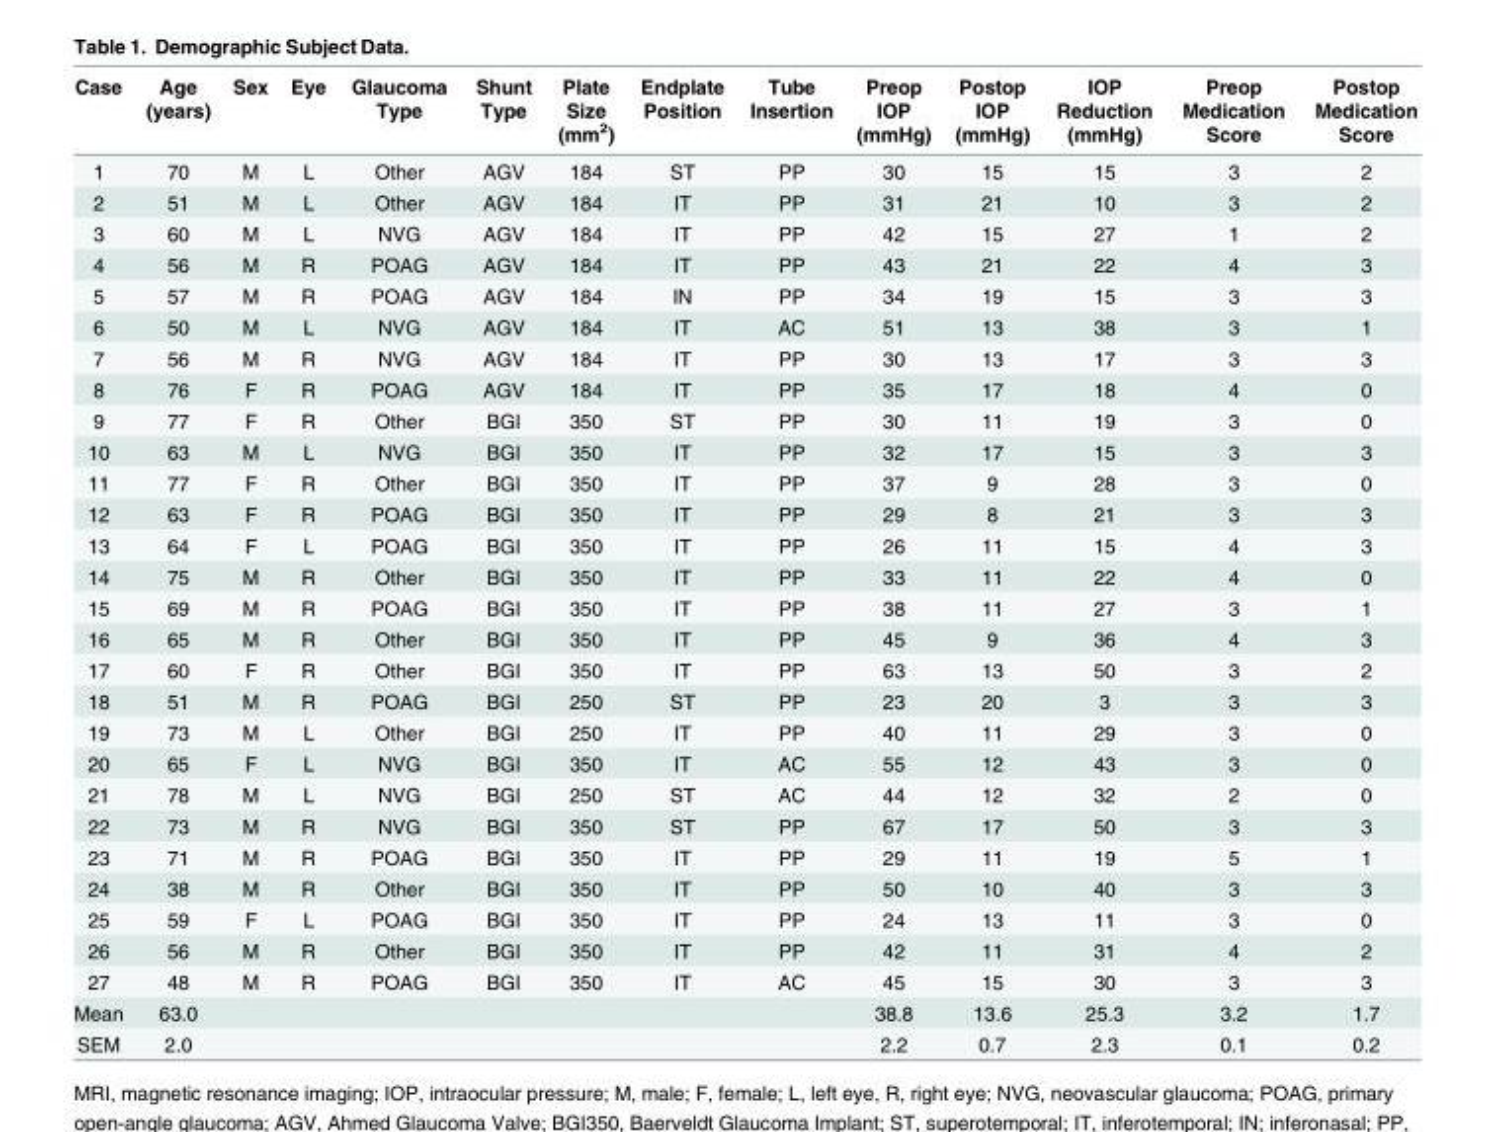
<table><thead><tr><td>Case</td><td>Age (years)</td><td>Sex</td><td>Eye</td><td>Glaucoma Type</td><td>Shunt Type</td><td>Plate Size (mm<sup>2</sup>)</td><td>Endplate Position</td><td>Tube Insertion</td><td>Preop IOP (mmHg)</td><td>Postop IOP (mmHg)</td><td>IOP Reduction (mmHg)</td><td>Preop Medication Score</td><td>Postop Medication Score</td></tr></thead><tbody><tr><td>1</td><td>70</td><td>M</td><td>L</td><td>Other</td><td>AGV</td><td>184</td><td>ST</td><td>PP</td><td>30</td><td>15</td><td>15</td><td>3</td><td>2</td></tr><tr><td>2</td><td>51</td><td>M</td><td>L</td><td>Other</td><td>AGV</td><td>184</td><td>IT</td><td>PP</td><td>31</td><td>21</td><td>10</td><td>3</td><td>2</td></tr><tr><td>3</td><td>60</td><td>M</td><td>L</td><td>NVG</td><td>AGV</td><td>184</td><td>IT</td><td>PP</td><td>42</td><td>15</td><td>27</td><td>1</td><td>2</td></tr><tr><td>4</td><td>56</td><td>M</td><td>R</td><td>POAG</td><td>AGV</td><td>184</td><td>IT</td><td>PP</td><td>43</td><td>21</td><td>22</td><td>4</td><td>3</td></tr><tr><td>5</td><td>57</td><td>M</td><td>R</td><td>POAG</td><td>AGV</td><td>184</td><td>IN</td><td>PP</td><td>34</td><td>19</td><td>15</td><td>3</td><td>3</td></tr><tr><td>6</td><td>50</td><td>M</td><td>L</td><td>NVG</td><td>AGV</td><td>184</td><td>IT</td><td>AC</td><td>51</td><td>13</td><td>38</td><td>3</td><td>1</td></tr><tr><td>7</td><td>56</td><td>M</td><td>R</td><td>NVG</td><td>AGV</td><td>184</td><td>IT</td><td>PP</td><td>30</td><td>13</td><td>17</td><td>3</td><td>3</td></tr><tr><td>8</td><td>76</td><td>F</td><td>R</td><td>POAG</td><td>AGV</td><td>184</td><td>IT</td><td>PP</td><td>35</td><td>17</td><td>18</td><td>4</td><td>0</td></tr><tr><td>9</td><td>77</td><td>F</td><td>R</td><td>Other</td><td>BGI</td><td>350</td><td>ST</td><td>PP</td><td>30</td><td>11</td><td>19</td><td>3</td><td>0</td></tr><tr><td>10</td><td>63</td><td>M</td><td>L</td><td>NVG</td><td>BGI</td><td>350</td><td>IT</td><td>PP</td><td>32</td><td>17</td><td>15</td><td>3</td><td>3</td></tr><tr><td>11</td><td>77</td><td>F</td><td>R</td><td>Other</td><td>BGI</td><td>350</td><td>IT</td><td>PP</td><td>37</td><td>9</td><td>28</td><td>3</td><td>0</td></tr><tr><td>12</td><td>63</td><td>F</td><td>R</td><td>POAG</td><td>BGI</td><td>350</td><td>IT</td><td>PP</td><td>29</td><td>8</td><td>21</td><td>3</td><td>3</td></tr><tr><td>13</td><td>64</td><td>F</td><td>L</td><td>POAG</td><td>BGI</td><td>350</td><td>IT</td><td>PP</td><td>26</td><td>11</td><td>15</td><td>4</td><td>3</td></tr><tr><td>14</td><td>75</td><td>M</td><td>R</td><td>Other</td><td>BGI</td><td>350</td><td>IT</td><td>PP</td><td>33</td><td>11</td><td>22</td><td>4</td><td>0</td></tr><tr><td>15</td><td>69</td><td>M</td><td>R</td><td>POAG</td><td>BGI</td><td>350</td><td>IT</td><td>PP</td><td>38</td><td>11</td><td>27</td><td>3</td><td>1</td></tr><tr><td>16</td><td>65</td><td>M</td><td>R</td><td>Other</td><td>BGI</td><td>350</td><td>IT</td><td>PP</td><td>45</td><td>9</td><td>36</td><td>4</td><td>3</td></tr><tr><td>17</td><td>60</td><td>F</td><td>R</td><td>Other</td><td>BGI</td><td>350</td><td>IT</td><td>PP</td><td>63</td><td>13</td><td>50</td><td>3</td><td>2</td></tr><tr><td>18</td><td>51</td><td>M</td><td>R</td><td>POAG</td><td>BGI</td><td>250</td><td>ST</td><td>PP</td><td>23</td><td>20</td><td>3</td><td>3</td><td>3</td></tr><tr><td>19</td><td>73</td><td>M</td><td>L</td><td>Other</td><td>BGI</td><td>250</td><td>IT</td><td>PP</td><td>40</td><td>11</td><td>29</td><td>3</td><td>0</td></tr><tr><td>20</td><td>65</td><td>F</td><td>L</td><td>NVG</td><td>BGI</td><td>350</td><td>IT</td><td>AC</td><td>55</td><td>12</td><td>43</td><td>3</td><td>0</td></tr><tr><td>21</td><td>78</td><td>M</td><td>L</td><td>NVG</td><td>BGI</td><td>250</td><td>ST</td><td>AC</td><td>44</td><td>12</td><td>32</td><td>2</td><td>0</td></tr><tr><td>22</td><td>73</td><td>M</td><td>R</td><td>NVG</td><td>BGI</td><td>350</td><td>ST</td><td>PP</td><td>67</td><td>17</td><td>50</td><td>3</td><td>3</td></tr><tr><td>23</td><td>71</td><td>M</td><td>R</td><td>POAG</td><td>BGI</td><td>350</td><td>IT</td><td>PP</td><td>29</td><td>11</td><td>19</td><td>5</td><td>1</td></tr><tr><td>24</td><td>38</td><td>M</td><td>R</td><td>Other</td><td>BGI</td><td>350</td><td>IT</td><td>PP</td><td>50</td><td>10</td><td>40</td><td>3</td><td>3</td></tr><tr><td>25</td><td>59</td><td>F</td><td>L</td><td>POAG</td><td>BGI</td><td>350</td><td>IT</td><td>PP</td><td>24</td><td>13</td><td>11</td><td>3</td><td>0</td></tr><tr><td>26</td><td>56</td><td>M</td><td>R</td><td>Other</td><td>BGI</td><td>350</td><td>IT</td><td>PP</td><td>42</td><td>11</td><td>31</td><td>4</td><td>2</td></tr><tr><td>27</td><td>48</td><td>M</td><td>R</td><td>POAG</td><td>BGI</td><td>350</td><td>IT</td><td>AC</td><td>45</td><td>15</td><td>30</td><td>3</td><td>3</td></tr><tr><td>Mean</td><td>63.0</td><td></td><td></td><td></td><td></td><td></td><td></td><td></td><td>38.8</td><td>13.6</td><td>25.3</td><td>3.2</td><td>1.7</td></tr><tr><td>SEM</td><td>2.0</td><td></td><td></td><td></td><td></td><td></td><td></td><td></td><td>2.2</td><td>0.7</td><td>2.3</td><td>0.1</td><td>0.2</td></tr></tbody></table>